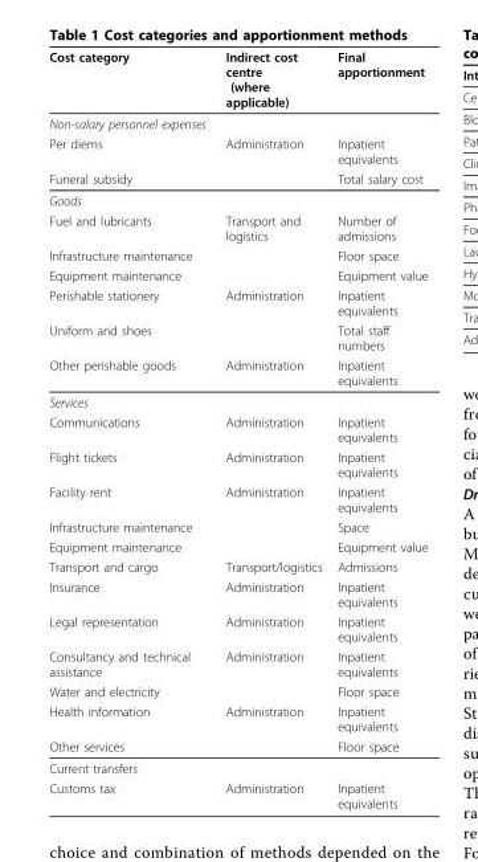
<table><thead><tr><td>Cost category</td><td>Indirect cost centre (where applicable)</td><td>Final apportionment</td></tr></thead><tbody><tr><td colspan="3">Non-salary personnel expenses</td></tr><tr><td>Per diems</td><td>Administration</td><td>Inpatient equivalents</td></tr><tr><td>Funeral subsidy</td><td></td><td>Total salary cost</td></tr><tr><td colspan="3">Goods</td></tr><tr><td>Fuel and lubricants</td><td>Transport and logistics</td><td>Number of admissions</td></tr><tr><td>Infrastructure maintenance</td><td></td><td>Floor space</td></tr><tr><td>Equipment maintenance</td><td></td><td>Equipment value</td></tr><tr><td>Perishable stationery</td><td>Administration</td><td>Inpatient equivalents</td></tr><tr><td>Uniform and shoes</td><td></td><td>Total staff numbers</td></tr><tr><td>Other perishable goods</td><td>Administration</td><td>Inpatient equivalents</td></tr><tr><td colspan="3">Services</td></tr><tr><td>Communications</td><td>Administration</td><td>Inpatient equivalents</td></tr><tr><td>Flight tickets</td><td>Administration</td><td>Inpatient equivalents</td></tr><tr><td>Facility rent</td><td>Administration</td><td>Inpatient equivalents</td></tr><tr><td>Infrastructure maintenance</td><td></td><td>Space</td></tr><tr><td>Equipment maintenance</td><td></td><td>Equipment value</td></tr><tr><td>Transport and cargo</td><td>Transport/logistics</td><td>Admissions</td></tr><tr><td>Insurance</td><td>Administration</td><td>Inpatient equivalents</td></tr><tr><td>Legal representation</td><td>Administration</td><td>Inpatient equivalents</td></tr><tr><td>Consultancy and technical assistance</td><td>Administration</td><td>Inpatient equivalents</td></tr><tr><td>Water and electricity</td><td></td><td>Floor space</td></tr><tr><td>Health information</td><td>Administration</td><td>Inpatient equivalents</td></tr><tr><td>Other services</td><td></td><td>Floor space</td></tr><tr><td colspan="3">Current transfers</td></tr><tr><td>Customs tax</td><td>Administration</td><td>Inpatient equivalents</td></tr></tbody></table>